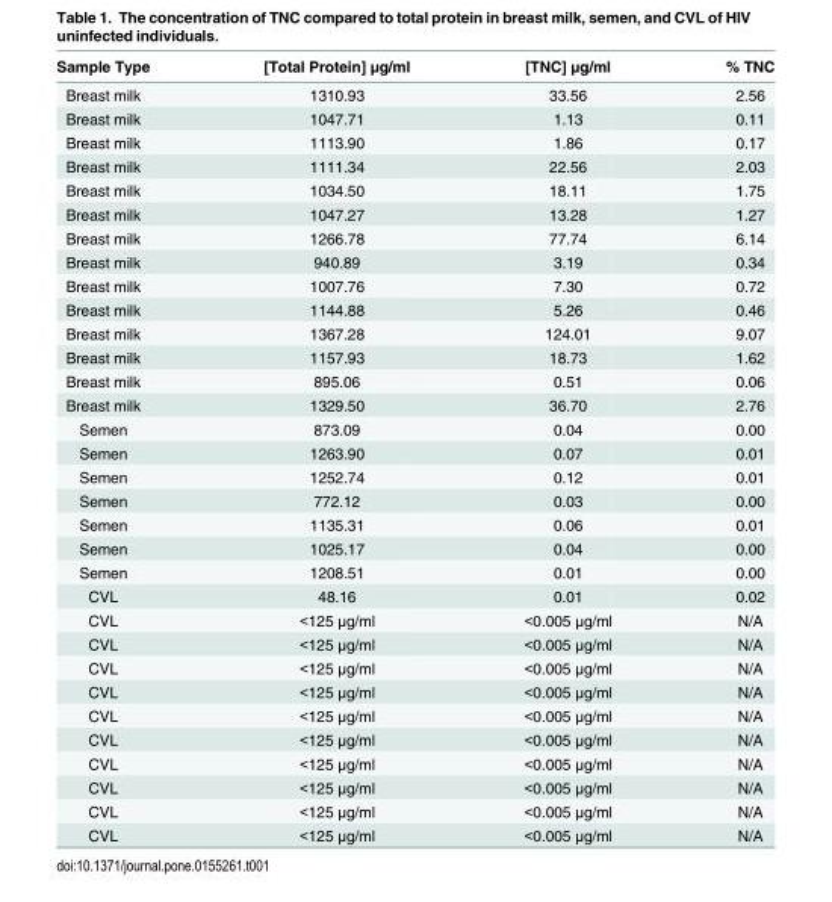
<table><thead><tr><td>Sample Type</td><td>[Total Protein] μg/ml</td><td>[TNC] μg/ml</td><td>% TNC</td></tr></thead><tbody><tr><td>Breast milk</td><td>1310.93</td><td>33.56</td><td>2.56</td></tr><tr><td>Breast milk</td><td>1047.71</td><td>1.13</td><td>0.11</td></tr><tr><td>Breast milk</td><td>1113.90</td><td>1.86</td><td>0.17</td></tr><tr><td>Breast milk</td><td>1111.34</td><td>22.56</td><td>2.03</td></tr><tr><td>Breast milk</td><td>1034.50</td><td>18.11</td><td>1.75</td></tr><tr><td>Breast milk</td><td>1047.27</td><td>13.28</td><td>1.27</td></tr><tr><td>Breast milk</td><td>1266.78</td><td>77.74</td><td>6.14</td></tr><tr><td>Breast milk</td><td>940.89</td><td>3.19</td><td>0.34</td></tr><tr><td>Breast milk</td><td>1007.76</td><td>7.30</td><td>0.72</td></tr><tr><td>Breast milk</td><td>1144.88</td><td>5.26</td><td>0.46</td></tr><tr><td>Breast milk</td><td>1367.28</td><td>124.01</td><td>9.07</td></tr><tr><td>Breast milk</td><td>1157.93</td><td>18.73</td><td>1.62</td></tr><tr><td>Breast milk</td><td>895.06</td><td>0.51</td><td>0.06</td></tr><tr><td>Breast milk</td><td>1329.50</td><td>36.70</td><td>2.76</td></tr><tr><td>Semen</td><td>873.09</td><td>0.04</td><td>0.00</td></tr><tr><td>Semen</td><td>1263.90</td><td>0.07</td><td>0.01</td></tr><tr><td>Semen</td><td>1252.74</td><td>0.12</td><td>0.01</td></tr><tr><td>Semen</td><td>772.12</td><td>0.03</td><td>0.00</td></tr><tr><td>Semen</td><td>1135.31</td><td>0.06</td><td>0.01</td></tr><tr><td>Semen</td><td>1025.17</td><td>0.04</td><td>0.00</td></tr><tr><td>Semen</td><td>1208.51</td><td>0.01</td><td>0.00</td></tr><tr><td>CVL</td><td>48.16</td><td>0.01</td><td>0.02</td></tr><tr><td>CVL</td><td>&lt;125 μg/ml</td><td>&lt;0.005 μg/ml</td><td>N/A</td></tr><tr><td>CVL</td><td>&lt;125 μg/ml</td><td>&lt;0.005 μg/ml</td><td>N/A</td></tr><tr><td>CVL</td><td>&lt;125 μg/ml</td><td>&lt;0.005 μg/ml</td><td>N/A</td></tr><tr><td>CVL</td><td>&lt;125 μg/ml</td><td>&lt;0.005 μg/ml</td><td>N/A</td></tr><tr><td>CVL</td><td>&lt;125 μg/ml</td><td>&lt;0.005 μg/ml</td><td>N/A</td></tr><tr><td>CVL</td><td>&lt;125 μg/ml</td><td>&lt;0.005 μg/ml</td><td>N/A</td></tr><tr><td>CVL</td><td>&lt;125 μg/ml</td><td>&lt;0.005 μg/ml</td><td>N/A</td></tr><tr><td>CVL</td><td>&lt;125 μg/ml</td><td>&lt;0.005 μg/ml</td><td>N/A</td></tr><tr><td>CVL</td><td>&lt;125 μg/ml</td><td>&lt;0.005 μg/ml</td><td>N/A</td></tr><tr><td>CVL</td><td>&lt;125 μg/ml</td><td>&lt;0.005 μg/ml</td><td>N/A</td></tr></tbody></table>